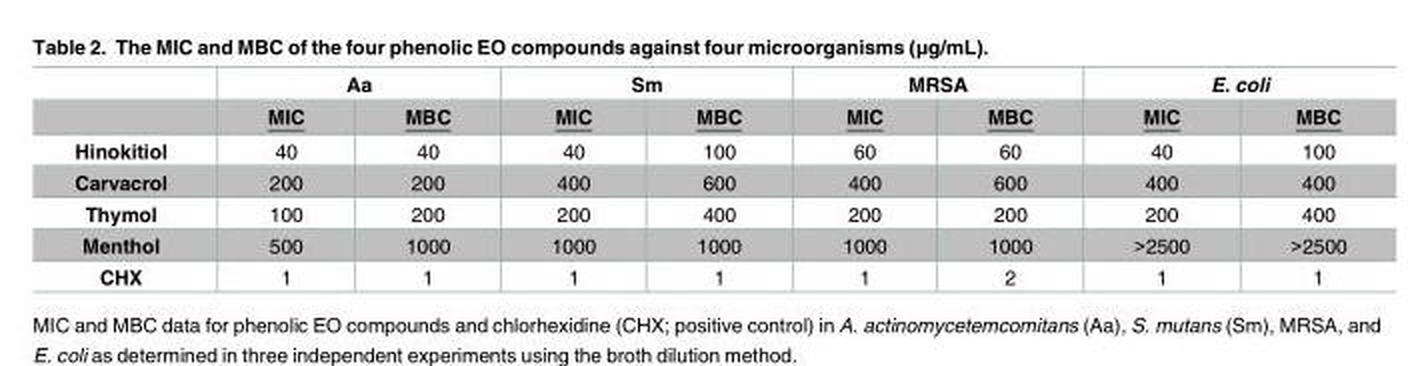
<table><thead><tr><td rowspan="2"></td><td colspan="2">Aa</td><td colspan="2">Sm</td><td colspan="2">MRSA</td><td colspan="2">E. coli</td></tr><tr><td>MIC</td><td>MBC</td><td>MIC</td><td>MBC</td><td>MIC</td><td>MBC</td><td>MIC</td><td>MBC</td></tr></thead><tbody><tr><td>Hinokitiol</td><td>40</td><td>40</td><td>40</td><td>100</td><td>60</td><td>60</td><td>40</td><td>100</td></tr><tr><td>Carvacrol</td><td>200</td><td>200</td><td>400</td><td>600</td><td>400</td><td>600</td><td>400</td><td>400</td></tr><tr><td>Thymol</td><td>100</td><td>200</td><td>200</td><td>400</td><td>200</td><td>200</td><td>200</td><td>400</td></tr><tr><td>Menthol</td><td>500</td><td>1000</td><td>1000</td><td>1000</td><td>1000</td><td>1000</td><td>&gt;2500</td><td>&gt;2500</td></tr><tr><td>CHX</td><td>1</td><td>1</td><td>1</td><td>1</td><td>1</td><td>2</td><td>1</td><td>1</td></tr></tbody></table>